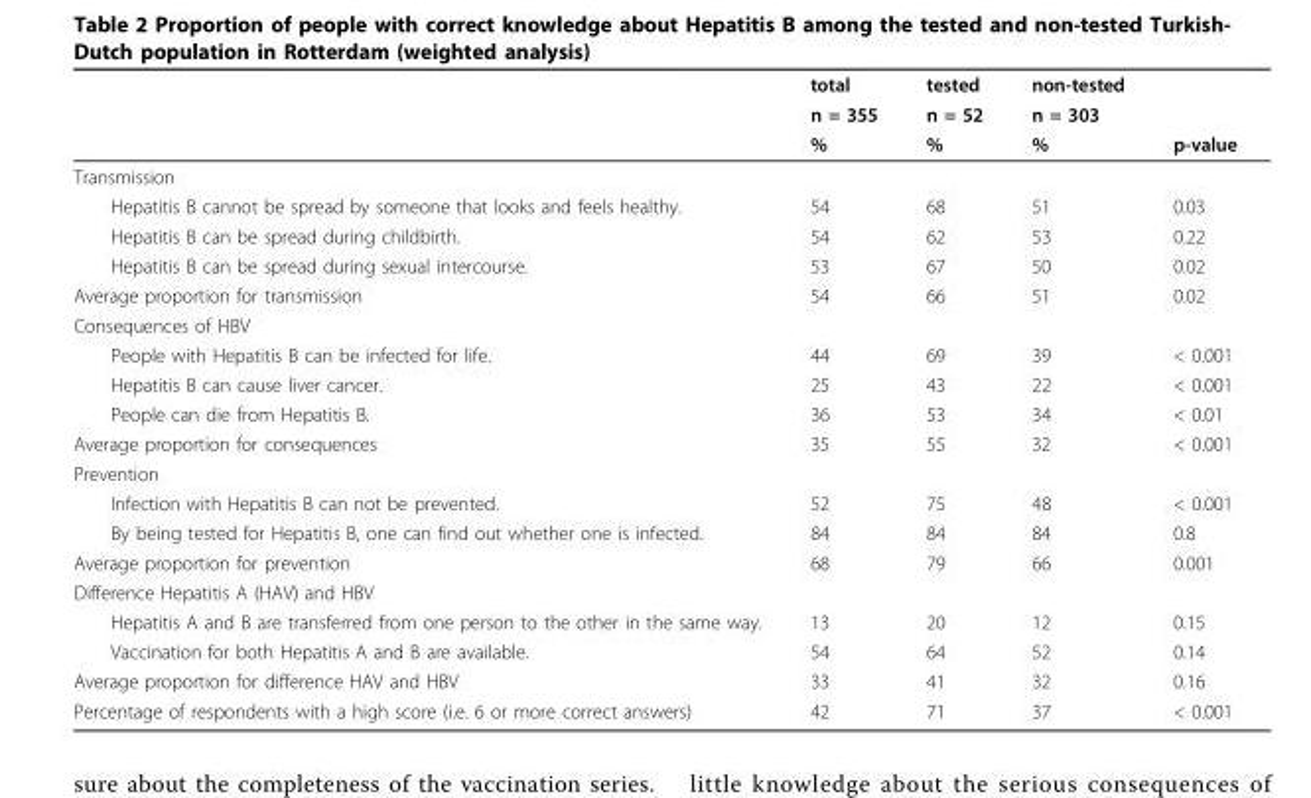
<table><thead><tr><td rowspan="3"></td><td rowspan="3">total n = 355 %</td><td rowspan="3">tested n = 52 %</td><td rowspan="3">non-tested n = 303 %</td><td rowspan="3">p-value</td></tr><tr></tr><tr></tr></thead><tbody><tr><td colspan="5">Transmission</td></tr><tr><td>Hepatitis B cannot be spread by someone that looks and feels healthy.</td><td>54</td><td>68</td><td>51</td><td>0.03</td></tr><tr><td>Hepatitis B can be spread during childbirth.</td><td>54</td><td>62</td><td>53</td><td>0.22</td></tr><tr><td>Hepatitis B can be spread during sexual intercourse.</td><td>53</td><td>67</td><td>50</td><td>0.02</td></tr><tr><td>Average proportion for transmission</td><td>54</td><td>66</td><td>51</td><td>0.02</td></tr><tr><td colspan="5">Consequences of HBV</td></tr><tr><td>People with Hepatitis B can be infected for life.</td><td>44</td><td>69</td><td>39</td><td>&lt; 0.001</td></tr><tr><td>Hepatitis B can cause liver cancer.</td><td>25</td><td>43</td><td>22</td><td>&lt; 0.001</td></tr><tr><td>People can die from Hepatitis B.</td><td>36</td><td>53</td><td>34</td><td>&lt; 0.01</td></tr><tr><td>Average proportion for consequences</td><td>35</td><td>55</td><td>32</td><td>&lt; 0.001</td></tr><tr><td colspan="5">Prevention</td></tr><tr><td>Infection with Hepatitis B can not be prevented.</td><td>52</td><td>75</td><td>48</td><td>&lt; 0.001</td></tr><tr><td>By being tested for Hepatitis B, one can find out whether one is infected.</td><td>84</td><td>84</td><td>84</td><td>0.8</td></tr><tr><td>Average proportion for prevention</td><td>68</td><td>79</td><td>66</td><td>0.001</td></tr><tr><td colspan="5">Difference Hepatitis A (HAV) and HBV</td></tr><tr><td>Hepatitis A and B are transferred from one person to the other in the same way.</td><td>13</td><td>20</td><td>12</td><td>0.15</td></tr><tr><td>Vaccination for both Hepatitis A and B are available.</td><td>54</td><td>64</td><td>52</td><td>0.14</td></tr><tr><td>Average proportion for difference HAV and HBV</td><td>33</td><td>41</td><td>32</td><td>0.16</td></tr><tr><td>Percentage of respondents with a high score (i.e. 6 or more correct answers)</td><td>42</td><td>71</td><td>37</td><td>&lt; 0.001</td></tr></tbody></table>